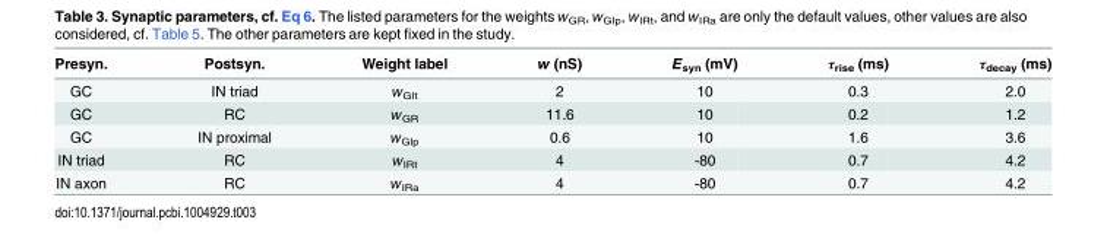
<table><thead><tr><td>Presyn.</td><td>Postsyn.</td><td>Weight label</td><td>w (nS)</td><td>E<sub>syn</sub> (mV)</td><td>τ<sub>rise</sub> (ms)</td><td>τ<sub>decay</sub> (ms)</td></tr></thead><tbody><tr><td>GC</td><td>IN triad</td><td>w<sub>GIt</sub></td><td>2</td><td>10</td><td>0.3</td><td>2.0</td></tr><tr><td>GC</td><td>RC</td><td>w<sub>GR</sub></td><td>11.6</td><td>10</td><td>0.2</td><td>1.2</td></tr><tr><td>GC</td><td>IN proximal</td><td>w<sub>GIp</sub></td><td>0.6</td><td>10</td><td>1.6</td><td>3.6</td></tr><tr><td>IN triad</td><td>RC</td><td>w<sub>IRt</sub></td><td>4</td><td>-80</td><td>0.7</td><td>4.2</td></tr><tr><td>IN axon</td><td>RC</td><td>w<sub>IRa</sub></td><td>4</td><td>-80</td><td>0.7</td><td>4.2</td></tr></tbody></table>